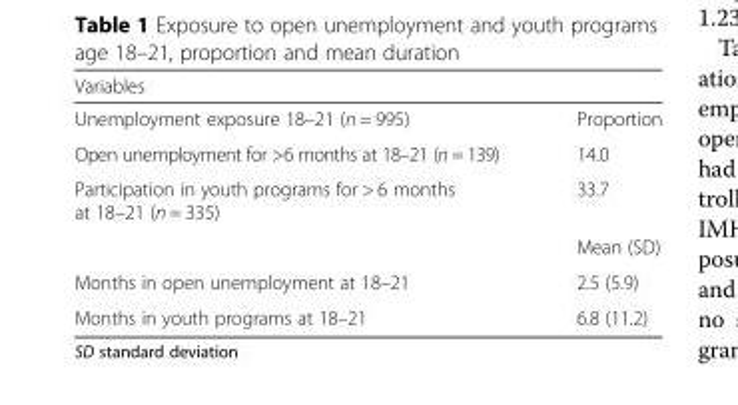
<table><thead><tr><td>Variables</td><td></td></tr></thead><tbody><tr><td>Unemployment exposure 18–21 (n = 995)</td><td>Proportion</td></tr><tr><td>Open unemployment for &gt;6 months at 18–21 (n = 139)</td><td>14.0</td></tr><tr><td rowspan="2">Participation in youth programs for &gt; 6 months at 18–21 (n = 335)</td><td>33.7</td></tr><tr><td>Mean (SD)</td></tr><tr><td>Months in open unemployment at 18–21</td><td>2.5 (5.9)</td></tr><tr><td>Months in youth programs at 18–21</td><td>6.8 (11.2)</td></tr></tbody></table>